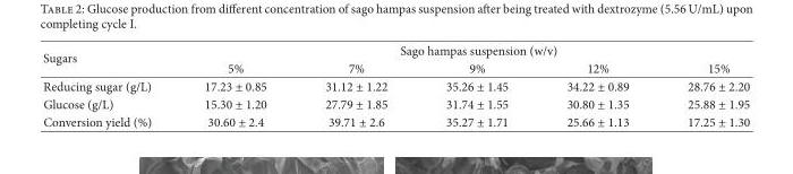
<table><thead><tr><td rowspan="2">Sugars</td><td colspan="5">Sago hampas suspension (w/v)</td></tr><tr><td>5%</td><td>7%</td><td>9%</td><td>12%</td><td>15%</td></tr></thead><tbody><tr><td>Reducing sugar (g/L)</td><td>17.23 ± 0.85</td><td>31.12 ± 1.22</td><td>35.26 ± 1.45</td><td>34.22 ± 0.89</td><td>28.76 ± 2.20</td></tr><tr><td>Glucose (g/L)</td><td>15.30 ± 1.20</td><td>27.79 ± 1.85</td><td>31.74 ± 1.55</td><td>30.80 ± 1.35</td><td>25.88 ± 1.95</td></tr><tr><td>Conversion yield (%)</td><td>30.60 ± 2.4</td><td>39.71 ± 2.6</td><td>35.27 ± 1.71</td><td>25.66 ± 1.13</td><td>17.25 ± 1.30</td></tr></tbody></table>